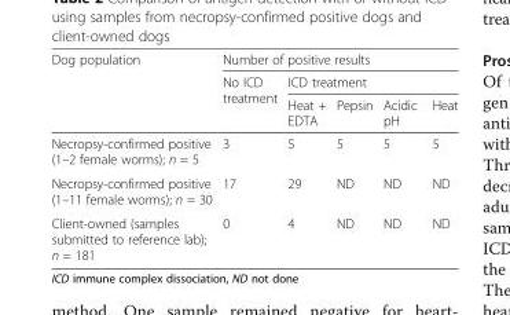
<table><thead><tr><td rowspan="3">Dog population</td><td colspan="5">Number of positive results</td></tr><tr><td rowspan="2">No ICD treatment</td><td colspan="4">ICD treatment</td></tr><tr><td>Heat + EDTA</td><td>Pepsin</td><td>Acidic pH</td><td>Heat</td></tr></thead><tbody><tr><td>Necropsy-confirmed positive (1–2 female worms); n = 5</td><td>3</td><td>5</td><td>5</td><td>5</td><td>5</td></tr><tr><td>Necropsy-confirmed positive (1–11 female worms); n = 30</td><td>17</td><td>29</td><td>ND</td><td>ND</td><td>ND</td></tr><tr><td>Client-owned (samples submitted to reference lab); n = 181</td><td>0</td><td>4</td><td>ND</td><td>ND</td><td>ND</td></tr></tbody></table>